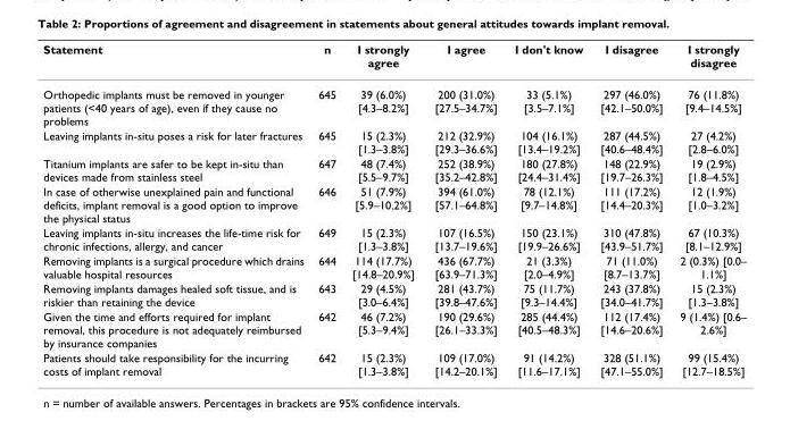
<table><thead><tr><td>Statement</td><td>n</td><td>I strongly agree</td><td>I agree</td><td>I don&#x27;t know</td><td>I disagree</td><td>I strongly disagree</td></tr></thead><tbody><tr><td>Orthopedic implants must be removed in younger patients (&lt;40 years of age), even if they cause no problems</td><td>645</td><td>39 (6.0%) [4.3–8.2%]</td><td>200 (31.0%) [27.5–34.7%]</td><td>33 (5.1%) [3.5–7.1%]</td><td>297 (46.0%) [42.1–50.0%]</td><td>76 (11.8%) [9.4–14.5%]</td></tr><tr><td>Leaving implants in-situ poses a risk for later fractures</td><td>645</td><td>15 (2.3%) [1.3–3.8%]</td><td>212 (32.9%) [29.3–36.6%]</td><td>104 (16.1%) [13.4–19.2%]</td><td>287 (44.5%) [40.6–48.4%]</td><td>27 (4.2%) [2.8–6.0%]</td></tr><tr><td>Titanium implants are safer to be kept in-situ than devices made from stainless steel</td><td>647</td><td>48 (7.4%) [5.5–9.7%]</td><td>252 (38.9%) [35.2–42.8%]</td><td>180 (27.8%) [24.4–31.4%]</td><td>148 (22.9%) [19.7–26.3%]</td><td>19 (2.9%) [1.8–4.5%]</td></tr><tr><td>In case of otherwise unexplained pain and functional deficits, implant removal is a good option to improve the physical status</td><td>646</td><td>51 (7.9%) [5.9–10.2%]</td><td>394 (61.0%) [57.1–64.8%]</td><td>78 (12.1%) [9.7–14.8%]</td><td>111 (17.2%) [14.4–20.3%]</td><td>12 (1.9%) [1.0–3.2%]</td></tr><tr><td>Leaving implants in-situ increases the life-time risk for chronic infections, allergy, and cancer</td><td>649</td><td>15 (2.3%) [1.3–3.8%]</td><td>107 (16.5%) [13.7–19.6%]</td><td>150 (23.1%) [19.9–26.6%]</td><td>310 (47.8%) [43.9–51.7%]</td><td>67 (10.3%) [8.1–12.9%]</td></tr><tr><td>Removing implants is a surgical procedure which drains valuable hospital resources</td><td>644</td><td>114 (17.7%) [14.8–20.9%]</td><td>436 (67.7%) [63.9–71.3%]</td><td>21 (3.3%) [2.0–4.9%]</td><td>71 (11.0%) [8.7–13.7%]</td><td>2 (0.3%) [0.0– 1.1%]</td></tr><tr><td>Removing implants damages healed soft tissue, and is riskier than retaining the device</td><td>643</td><td>29 (4.5%) [3.0–6.4%]</td><td>281 (43.7%) [39.8–47.6%]</td><td>75 (11.7%) [9.3–14.4%]</td><td>243 (37.8%) [34.0–41.7%]</td><td>15 (2.3%) [1.3–3.8%]</td></tr><tr><td>Given the time and efforts required for implant removal, this procedure is not adequately reimbursed by insurance companies</td><td>642</td><td>46 (7.2%) [5.3–9.4%]</td><td>190 (29.6%) [26.1–33.3%]</td><td>285 (44.4%) [40.5–48.3%]</td><td>112 (17.4%) [14.6–20.6%]</td><td>9 (1.4%) [0.6– 2.6%]</td></tr><tr><td>Patients should take responsibility for the incurring costs of implant removal</td><td>642</td><td>15 (2.3%) [1.3–3.8%]</td><td>109 (17.0%) [14.2–20.1%]</td><td>91 (14.2%) [11.6–17.1%]</td><td>328 (51.1%) [47.1–55.0%]</td><td>99 (15.4%) [12.7–18.5%]</td></tr></tbody></table>